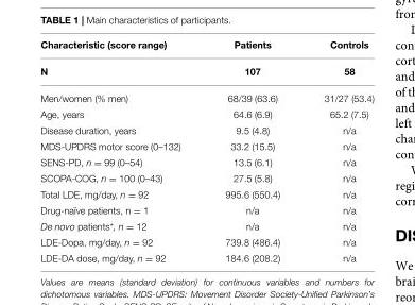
<table><thead><tr><td>Characteristic (score range)</td><td>Patients</td><td>Controls</td></tr></thead><tbody><tr><td>N</td><td>107</td><td>58</td></tr><tr><td>Men/women (% men)</td><td>68/39 (63.6)</td><td>31/27 (53.4)</td></tr><tr><td>Age, years</td><td>64.6 (6.9)</td><td>65.2 (7.5)</td></tr><tr><td>Disease duration, years</td><td>9.5 (4.8)</td><td>n/a</td></tr><tr><td>MDS-UPDRS motor score (0–132)</td><td>33.2 (15.5)</td><td>n/a</td></tr><tr><td>SENS-PD, n = 99 (0–54)</td><td>13.5 (6.1)</td><td>n/a</td></tr><tr><td>SCOPA-COG, n = 100 (0–43)</td><td>27.5 (5.8)</td><td>n/a</td></tr><tr><td>Total LDE, mg/day, n = 92</td><td>995.6 (550.4)</td><td>n/a</td></tr><tr><td>Drug-naïve patients, n = 1</td><td>n/a</td><td>n/a</td></tr><tr><td>De novo patients*, n = 12</td><td>n/a</td><td>n/a</td></tr><tr><td>LDE-Dopa, mg/day, n = 92</td><td>739.8 (486.4)</td><td>n/a</td></tr><tr><td>LDE-DA dose, mg/day, n = 92</td><td>184.6 (208.2)</td><td>n/a</td></tr></tbody></table>